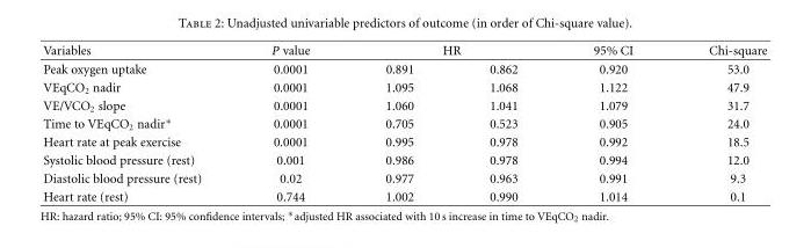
<table><thead><tr><td rowspan="2">Variables Peak oxygen uptake</td><td rowspan="2">P value 0.0001</td><td colspan="2">HR</td><td rowspan="2">95% CI 0.920</td><td rowspan="2">Chi-square 53.0</td></tr><tr><td>0.891</td><td>0.862</td></tr></thead><tbody><tr><td>VEqCO<sub>2</sub> nadir</td><td>0.0001</td><td>1.095</td><td>1.068</td><td>1.122</td><td>47.9</td></tr><tr><td>VE/VCO<sub>2</sub> slope</td><td>0.0001</td><td>1.060</td><td>1.041</td><td>1.079</td><td>31.7</td></tr><tr><td>Time to VEqCO2 nadir∗</td><td>0.0001</td><td>0.705</td><td>0.523</td><td>0.905</td><td>24.0</td></tr><tr><td>Heart rate at peak exercise</td><td>0.0001</td><td>0.995</td><td>0.978</td><td>0.992</td><td>18.5</td></tr><tr><td>Systolic blood pressure (rest)</td><td>0.001</td><td>0.986</td><td>0.978</td><td>0.994</td><td>12.0</td></tr><tr><td>Diastolic blood pressure (rest)</td><td>0.02</td><td>0.977</td><td>0.963</td><td>0.991</td><td>9.3</td></tr><tr><td>Heart rate (rest)</td><td>0.744</td><td>1.002</td><td>0.990</td><td>1.014</td><td>0.1</td></tr></tbody></table>